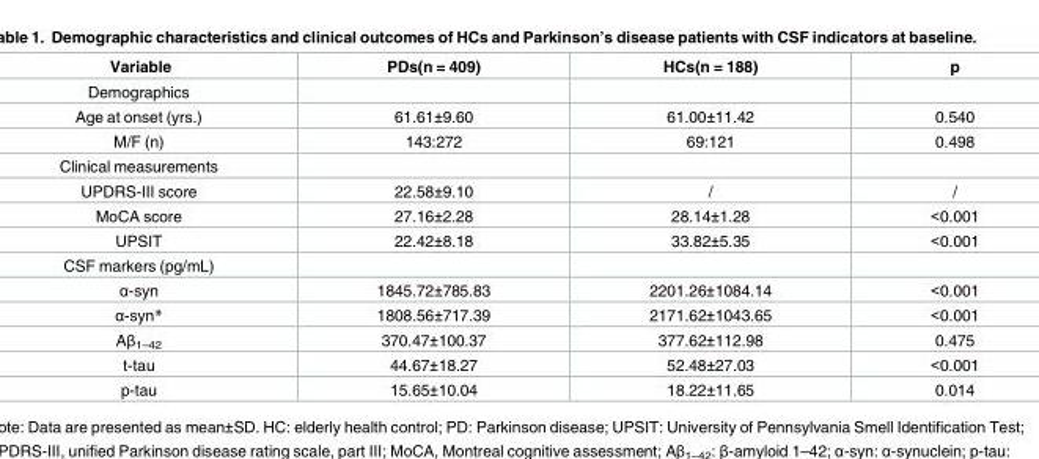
<table><thead><tr><td>Variable</td><td>PDs(n = 409)</td><td>HCs(n = 188)</td><td>p</td></tr></thead><tbody><tr><td colspan="4">Demographics</td></tr><tr><td>Age at onset (yrs.)</td><td>61.61±9.60</td><td>61.00±11.42</td><td>0.540</td></tr><tr><td>M/F (n)</td><td>143:272</td><td>69:121</td><td>0.498</td></tr><tr><td colspan="4">Clinical measurements</td></tr><tr><td>UPDRS-III score</td><td>22.58±9.10</td><td>/</td><td>/</td></tr><tr><td>MoCA score</td><td>27.16±2.28</td><td>28.14±1.28</td><td>&lt;0.001</td></tr><tr><td>UPSIT</td><td>22.42±8.18</td><td>33.82±5.35</td><td>&lt;0.001</td></tr><tr><td colspan="4">CSF markers (pg/mL)</td></tr><tr><td>α-syn</td><td>1845.72±785.83</td><td>2201.26±1084.14</td><td>&lt;0.001</td></tr><tr><td>α-syn*</td><td>1808.56±717.39</td><td>2171.62±1043.65</td><td>&lt;0.001</td></tr><tr><td>Aβ<sub>1–42</sub></td><td>370.47±100.37</td><td>377.62±112.98</td><td>0.475</td></tr><tr><td>t-tau</td><td>44.67±18.27</td><td>52.48±27.03</td><td>&lt;0.001</td></tr><tr><td>p-tau</td><td>15.65±10.04</td><td>18.22±11.65</td><td>0.014</td></tr></tbody></table>